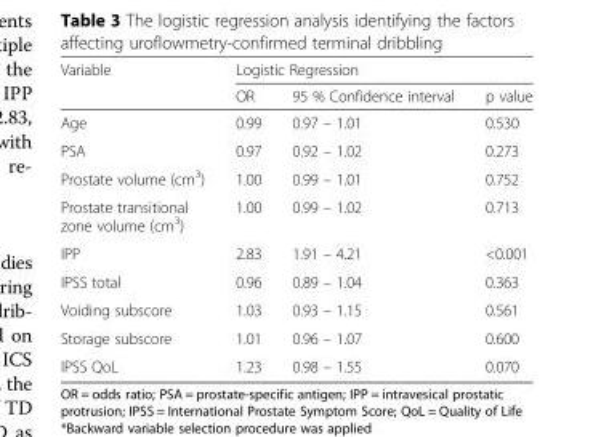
<table><thead><tr><td rowspan="2">Variable</td><td colspan="3">Logistic Regression</td></tr><tr><td>OR</td><td>95 % Confidence interval</td><td>p value</td></tr></thead><tbody><tr><td>Age</td><td>0.99</td><td>0.97 – 1.01</td><td>0.530</td></tr><tr><td>PSA</td><td>0.97</td><td>0.92 – 1.02</td><td>0.273</td></tr><tr><td>Prostate volume (cm<sup>3</sup>)</td><td>1.00</td><td>0.99 – 1.01</td><td>0.752</td></tr><tr><td>Prostate transitional zone volume (cm<sup>3</sup>)</td><td>1.00</td><td>0.99 – 1.02</td><td>0.713</td></tr><tr><td>IPP</td><td>2.83</td><td>1.91 – 4.21</td><td>&lt;0.001</td></tr><tr><td>IPSS total</td><td>0.96</td><td>0.89 – 1.04</td><td>0.363</td></tr><tr><td>Voiding subscore</td><td>1.03</td><td>0.93 – 1.15</td><td>0.561</td></tr><tr><td>Storage subscore</td><td>1.01</td><td>0.96 – 1.07</td><td>0.600</td></tr><tr><td>IPSS QoL</td><td>1.23</td><td>0.98 – 1.55</td><td>0.070</td></tr></tbody></table>